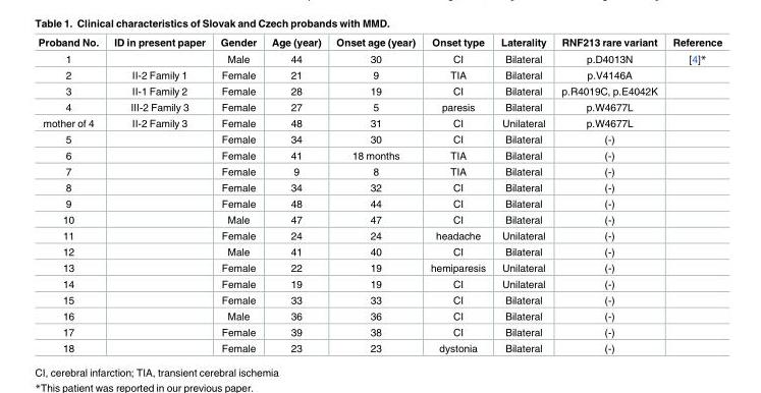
<table><thead><tr><td>Proband No.</td><td>ID in present paper</td><td>Gender</td><td>Age (year)</td><td>Onset age (year)</td><td>Onset type</td><td>Laterality</td><td>RNF213 rare variant</td><td>Reference</td></tr></thead><tbody><tr><td>1</td><td></td><td>Male</td><td>44</td><td>30</td><td>CI</td><td>Bilateral</td><td>p.D4013N</td><td>[4]*</td></tr><tr><td>2</td><td>II-2 Family 1</td><td>Female</td><td>21</td><td>9</td><td>TIA</td><td>Bilateral</td><td>p.V4146A</td><td></td></tr><tr><td>3</td><td>II-1 Family 2</td><td>Female</td><td>28</td><td>19</td><td>CI</td><td>Bilateral</td><td>p.R4019C, p.E4042K</td><td></td></tr><tr><td>4</td><td>III-2 Family 3</td><td>Female</td><td>27</td><td>5</td><td>paresis</td><td>Bilateral</td><td>p.W4677L</td><td></td></tr><tr><td>mother of 4</td><td>II-2 Family 3</td><td>Female</td><td>48</td><td>31</td><td>CI</td><td>Unilateral</td><td>p.W4677L</td><td></td></tr><tr><td>5</td><td></td><td>Female</td><td>34</td><td>30</td><td>CI</td><td>Bilateral</td><td>(-)</td><td></td></tr><tr><td>6</td><td></td><td>Female</td><td>41</td><td>18 months</td><td>TIA</td><td>Bilateral</td><td>(-)</td><td></td></tr><tr><td>7</td><td></td><td>Female</td><td>9</td><td>8</td><td>TIA</td><td>Bilateral</td><td>(-)</td><td></td></tr><tr><td>8</td><td></td><td>Female</td><td>34</td><td>32</td><td>CI</td><td>Bilateral</td><td>(-)</td><td></td></tr><tr><td>9</td><td></td><td>Female</td><td>48</td><td>44</td><td>CI</td><td>Bilateral</td><td>(-)</td><td></td></tr><tr><td>10</td><td></td><td>Male</td><td>47</td><td>47</td><td>CI</td><td>Bilateral</td><td>(-)</td><td></td></tr><tr><td>11</td><td></td><td>Female</td><td>24</td><td>24</td><td>headache</td><td>Unilateral</td><td>(-)</td><td></td></tr><tr><td>12</td><td></td><td>Male</td><td>41</td><td>40</td><td>CI</td><td>Bilateral</td><td>(-)</td><td></td></tr><tr><td>13</td><td></td><td>Female</td><td>22</td><td>19</td><td>hemiparesis</td><td>Unilateral</td><td>(-)</td><td></td></tr><tr><td>14</td><td></td><td>Female</td><td>19</td><td>19</td><td>CI</td><td>Unilateral</td><td>(-)</td><td></td></tr><tr><td>15</td><td></td><td>Female</td><td>33</td><td>33</td><td>CI</td><td>Bilateral</td><td>(-)</td><td></td></tr><tr><td>16</td><td></td><td>Male</td><td>36</td><td>36</td><td>CI</td><td>Bilateral</td><td>(-)</td><td></td></tr><tr><td>17</td><td></td><td>Female</td><td>39</td><td>38</td><td>CI</td><td>Bilateral</td><td>(-)</td><td></td></tr><tr><td>18</td><td></td><td>Female</td><td>23</td><td>23</td><td>dystonia</td><td>Bilateral</td><td>(-)</td><td></td></tr></tbody></table>